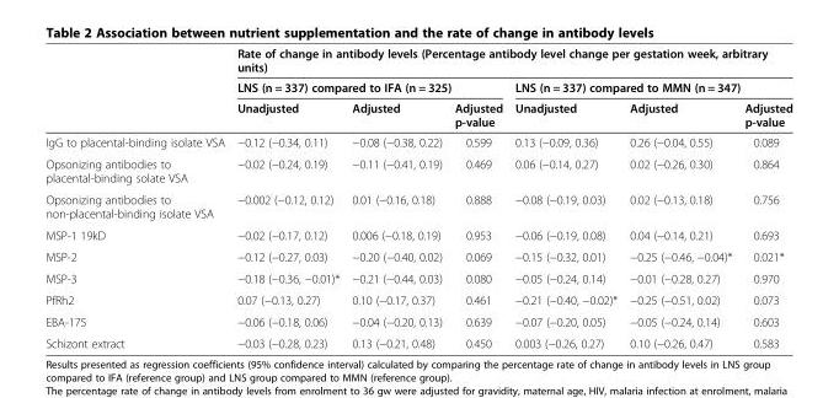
<table><thead><tr><td rowspan="3"></td><td colspan="6">Rate of change in antibody levels (Percentage antibody level change per gestation week, arbitrary units)</td></tr><tr><td colspan="3">LNS (n = 337) compared to IFA (n = 325)</td><td colspan="3">LNS (n = 337) compared to MMN (n = 347)</td></tr><tr><td>Unadjusted</td><td>Adjusted</td><td>Adjusted p-value</td><td>Unadjusted</td><td>Adjusted</td><td>Adjusted p-value</td></tr></thead><tbody><tr><td>IgG to placental-binding isolate VSA</td><td>−0.12 (−0.34, 0.11)</td><td>−0.08 (−0.38, 0.22)</td><td>0.599</td><td>0.13 (−0.09, 0.36)</td><td>0.26 (−0.04, 0.55)</td><td>0.089</td></tr><tr><td>Opsonizing antibodies to placental-binding solate VSA</td><td>−0.02 (−0.24, 0.19)</td><td>−0.11 (−0.41, 0.19)</td><td>0.469</td><td>0.06 (−0.14, 0.27)</td><td>0.02 (−0.26, 0.30)</td><td>0.864</td></tr><tr><td>Opsonizing antibodies to non-placental-binding isolate VSA</td><td>−0.002 (−0.12, 0.12)</td><td>0.01 (−0.16, 0.18)</td><td>0.888</td><td>−0.08 (−0.19, 0.03)</td><td>0.02 (−0.13, 0.18)</td><td>0.756</td></tr><tr><td>MSP-1 19kD</td><td>−0.02 (−0.17, 0.12)</td><td>0.006 (−0.18, 0.19)</td><td>0.953</td><td>−0.06 (−0.19, 0.08)</td><td>0.04 (−0.14, 0.21)</td><td>0.693</td></tr><tr><td>MSP-2</td><td>−0.12 (−0.27, 0.03)</td><td>−0.20 (−0.40, 0.02)</td><td>0.069</td><td>−0.15 (−0.32, 0.01)</td><td>−0.25 (−0.46, −0.04)*</td><td>0.021*</td></tr><tr><td>MSP-3</td><td>−0.18 (−0.36, −0.01)*</td><td>−0.21 (−0.44, 0.03)</td><td>0.080</td><td>−0.05 (−0.24, 0.14)</td><td>−0.01 (−0.28, 0.27)</td><td>0.970</td></tr><tr><td>PfRh2</td><td>0.07 (−0.13, 0.27)</td><td>0.10 (−0.17, 0.37)</td><td>0.461</td><td>−0.21 (−0.40, −0.02)*</td><td>−0.25 (−0.51, 0.02)</td><td>0.073</td></tr><tr><td>EBA-175</td><td>−0.06 (−0.18, 0.06)</td><td>−0.04 (−0.20, 0.13)</td><td>0.639</td><td>−0.07 (−0.20, 0.05)</td><td>−0.05 (−0.24, 0.14)</td><td>0.603</td></tr><tr><td>Schizont extract</td><td>−0.03 (−0.28, 0.23)</td><td>0.13 (−0.21, 0.48)</td><td>0.450</td><td>0.003 (−0.26, 0.27)</td><td>0.10 (−0.26, 0.47)</td><td>0.583</td></tr></tbody></table>